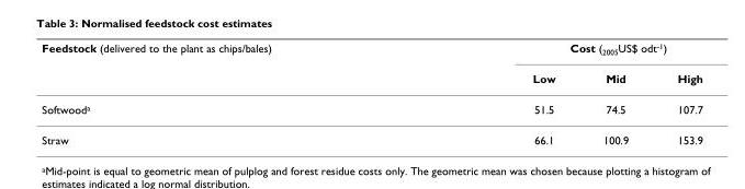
<table><thead><tr><td rowspan="2">Feedstock (delivered to the plant as chips/bales)</td><td colspan="3">Cost (<sub>2005</sub>US$ odt<sup>-1</sup>)</td></tr><tr><td>Low</td><td>Mid</td><td>High</td></tr></thead><tbody><tr><td>Softwood<sup>a</sup></td><td>51.5</td><td>74.5</td><td>107.7</td></tr><tr><td>Straw</td><td>66.1</td><td>100.9</td><td>153.9</td></tr></tbody></table>